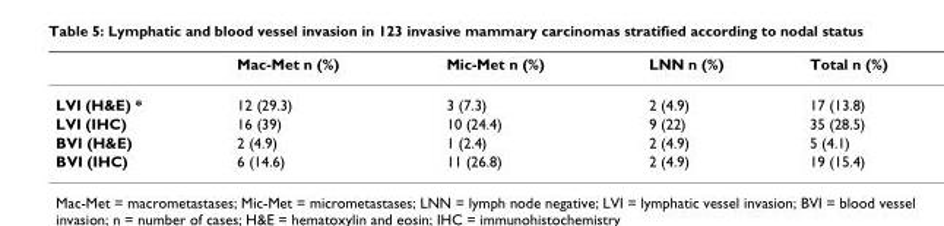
<table><thead><tr><td></td><td>Mac-Met n (%)</td><td>Mic-Met n (%)</td><td>LNN n (%)</td><td>Total n (%)</td></tr></thead><tbody><tr><td>LVI (H&amp;E) *</td><td>12 (29.3)</td><td>3 (7.3)</td><td>2 (4.9)</td><td>17 (13.8)</td></tr><tr><td>LVI (IHC)</td><td>16 (39)</td><td>10 (24.4)</td><td>9 (22)</td><td>35 (28.5)</td></tr><tr><td>BVI (H&amp;E)</td><td>2 (4.9)</td><td>1 (2.4)</td><td>2 (4.9)</td><td>5 (4.1)</td></tr><tr><td>BVI (IHC)</td><td>6 (14.6)</td><td>11 (26.8)</td><td>2 (4.9)</td><td>19 (15.4)</td></tr></tbody></table>